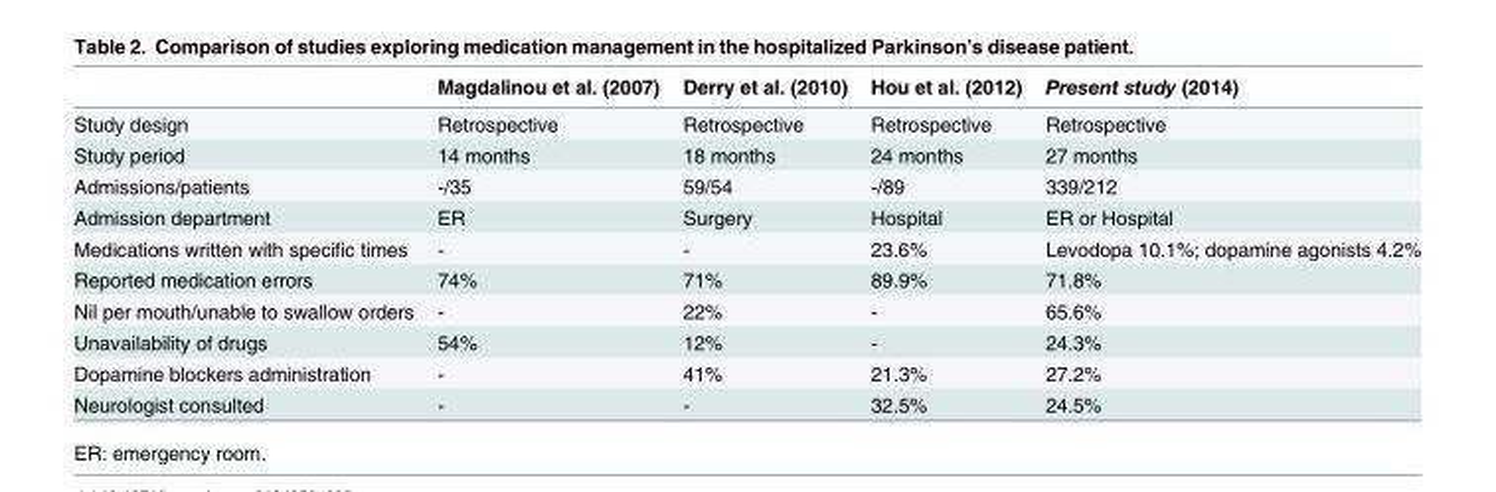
<table><thead><tr><td></td><td>Magdalinou et al. (2007)</td><td>Derry et al. (2010)</td><td>Hou et al. (2012)</td><td>Present study (2014)</td></tr></thead><tbody><tr><td>Study design</td><td>Retrospective</td><td>Retrospective</td><td>Retrospective</td><td>Retrospective</td></tr><tr><td>Study period</td><td>14 months</td><td>18 months</td><td>24 months</td><td>27 months</td></tr><tr><td>Admissions/patients</td><td>-/35</td><td>59/54</td><td>-/89</td><td>339/212</td></tr><tr><td>Admission department</td><td>ER</td><td>Surgery</td><td>Hospital</td><td>ER or Hospital</td></tr><tr><td>Medications written with specific times</td><td>-</td><td>-</td><td>23.6%</td><td>Levodopa 10.1%; dopamine agonists 4.2%</td></tr><tr><td>Reported medication errors</td><td>74%</td><td>71%</td><td>89.9%</td><td>71.8%</td></tr><tr><td>Nil per mouth/unable to swallow orders</td><td>-</td><td>22%</td><td>-</td><td>65.6%</td></tr><tr><td>Unavailability of drugs</td><td>54%</td><td>12%</td><td>-</td><td>24.3%</td></tr><tr><td>Dopamine blockers administration</td><td>-</td><td>41%</td><td>21.3%</td><td>27.2%</td></tr><tr><td>Neurologist consulted</td><td>-</td><td>-</td><td>32.5%</td><td>24.5%</td></tr></tbody></table>